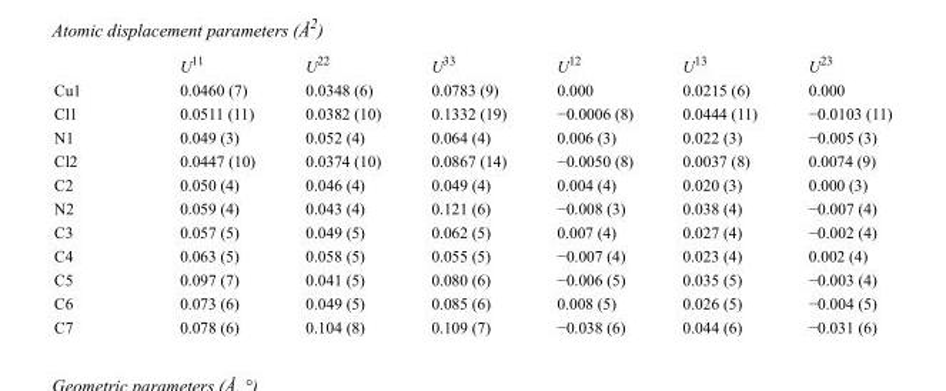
<table><thead><tr><td></td><td>U<sup>11</sup></td><td>U<sup>22</sup></td><td>U<sup>33</sup></td><td>U<sup>12</sup></td><td>U<sup>13</sup></td><td>U<sup>23</sup></td></tr></thead><tbody><tr><td>Cu1</td><td>0.0460 (7)</td><td>0.0348 (6)</td><td>0.0783 (9)</td><td>0.000</td><td>0.0215 (6)</td><td>0.000</td></tr><tr><td>Cl1</td><td>0.0511 (11)</td><td>0.0382 (10)</td><td>0.1332 (19)</td><td>−0.0006 (8)</td><td>0.0444 (11)</td><td>−0.0103 (11)</td></tr><tr><td>N1</td><td>0.049 (3)</td><td>0.052 (4)</td><td>0.064 (4)</td><td>0.006 (3)</td><td>0.022 (3)</td><td>−0.005 (3)</td></tr><tr><td>Cl2</td><td>0.0447 (10)</td><td>0.0374 (10)</td><td>0.0867 (14)</td><td>−0.0050 (8)</td><td>0.0037 (8)</td><td>0.0074 (9)</td></tr><tr><td>C2</td><td>0.050 (4)</td><td>0.046 (4)</td><td>0.049 (4)</td><td>0.004 (4)</td><td>0.020 (3)</td><td>0.000 (3)</td></tr><tr><td>N2</td><td>0.059 (4)</td><td>0.043 (4)</td><td>0.121 (6)</td><td>−0.008 (3)</td><td>0.038 (4)</td><td>−0.007 (4)</td></tr><tr><td>C3</td><td>0.057 (5)</td><td>0.049 (5)</td><td>0.062 (5)</td><td>0.007 (4)</td><td>0.027 (4)</td><td>−0.002 (4)</td></tr><tr><td>C4</td><td>0.063 (5)</td><td>0.058 (5)</td><td>0.055 (5)</td><td>−0.007 (4)</td><td>0.023 (4)</td><td>0.002 (4)</td></tr><tr><td>C5</td><td>0.097 (7)</td><td>0.041 (5)</td><td>0.080 (6)</td><td>−0.006 (5)</td><td>0.035 (5)</td><td>−0.003 (4)</td></tr><tr><td>C6</td><td>0.073 (6)</td><td>0.049 (5)</td><td>0.085 (6)</td><td>0.008 (5)</td><td>0.026 (5)</td><td>−0.004 (5)</td></tr><tr><td>C7</td><td>0.078 (6)</td><td>0.104 (8)</td><td>0.109 (7)</td><td>−0.038 (6)</td><td>0.044 (6)</td><td>−0.031 (6)</td></tr></tbody></table>